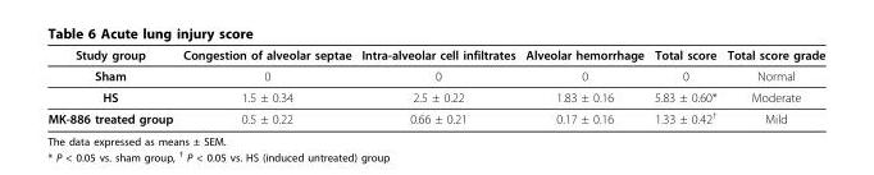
<table><thead><tr><td>Study group</td><td>Congestion of alveolar septae</td><td>Intra-alveolar cell infiltrates</td><td>Alveolar hemorrhage</td><td>Total score</td><td>Total score grade</td></tr></thead><tbody><tr><td>Sham</td><td>0</td><td>0</td><td>0</td><td>0</td><td>Normal</td></tr><tr><td>HS</td><td>1.5 ± 0.34</td><td>2.5 ± 0.22</td><td>1.83 ± 0.16</td><td>5.83 ± 0.60*</td><td>Moderate</td></tr><tr><td>MK-886 treated group</td><td>0.5 ± 0.22</td><td>0.66 ± 0.21</td><td>0.17 ± 0.16</td><td>1.33 ± 0.42<sup>†</sup></td><td>Mild</td></tr></tbody></table>